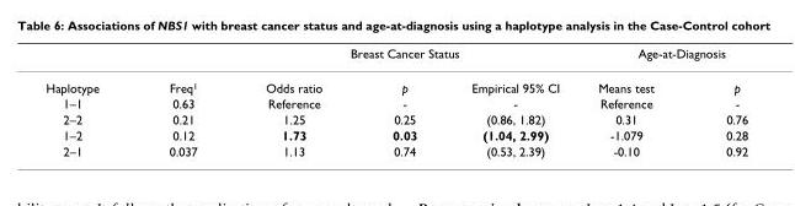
<table><thead><tr><td rowspan="2">Haplotype</td><td rowspan="2">Freq1</td><td colspan="3">Breast Cancer Status</td><td colspan="2">Age-at-Diagnosis</td></tr><tr><td>Odds ratio</td><td>p</td><td>Empirical 95% CI</td><td>Means test</td><td>p</td></tr></thead><tbody><tr><td>1–1</td><td>0.63</td><td>Reference</td><td>-</td><td>-</td><td>Reference</td><td>-</td></tr><tr><td>2–2</td><td>0.21</td><td>1.25</td><td>0.25</td><td>(0.86, 1.82)</td><td>0.31</td><td>0.76</td></tr><tr><td>1–2</td><td>0.12</td><td>1.73</td><td>0.03</td><td>(1.04, 2.99)</td><td>-1.079</td><td>0.28</td></tr><tr><td>2–1</td><td>0.037</td><td>1.13</td><td>0.74</td><td>(0.53, 2.39)</td><td>-0.10</td><td>0.92</td></tr></tbody></table>